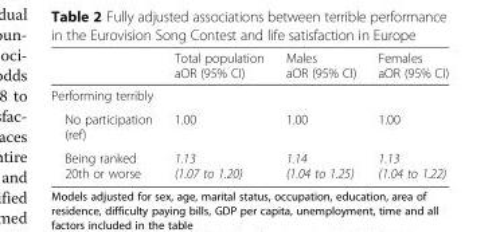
<table><thead><tr><td></td><td>Total population aOR (95% CI)</td><td>Males aOR (95% CI)</td><td>Females aOR (95% CI)</td></tr></thead><tbody><tr><td colspan="4">Performing terribly</td></tr><tr><td>No participation (ref)</td><td>1.00</td><td>1.00</td><td>1.00</td></tr><tr><td>Being ranked 20th or worse</td><td>1.13 (1.07 to 1.20)</td><td>1.14 (1.04 to 1.25)</td><td>1.13 (1.04 to 1.22)</td></tr></tbody></table>